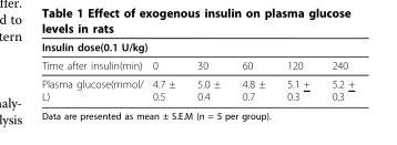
<table><thead><tr><td colspan="5">Insulin dose(0.1 U/kg)</td><td rowspan="2">240</td></tr><tr><td>Time after insulin(min)</td><td>0</td><td>30</td><td>60</td><td>120</td></tr></thead><tbody><tr><td>Plasma glucose(mmol/ L)</td><td>4.7 ± 0.5</td><td>5.0 ± 0.4</td><td>4.8 ± 0.7</td><td>5.1 + 0.3</td><td>5.2 + 0.3</td></tr></tbody></table>